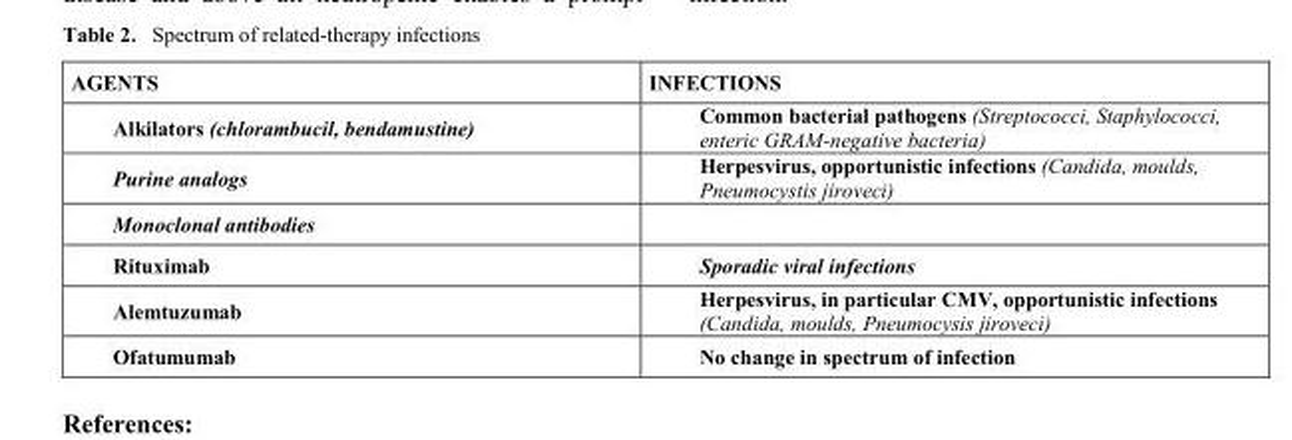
<table><thead><tr><td>AGENTS</td><td>INFECTIONS</td></tr></thead><tbody><tr><td>Alkilators (chlorambucil, bendamustine)</td><td>Common bacterial pathogens (Streptococci, Staphylococci, enteric GRAM-negative bacteria)</td></tr><tr><td>Purine analogs</td><td>Herpesvirus, opportunistic infections (Candida, moulds, Pneumocystis jiroveci)</td></tr><tr><td colspan="2">Monoclonal antibodies</td></tr><tr><td>Rituximab</td><td>Sporadic viral infections</td></tr><tr><td>Alemtuzumab</td><td>Herpesvirus, in particular CMV, opportunistic infections (Candida, moulds, Pneumocysis jiroveci)</td></tr><tr><td>Ofatumumab</td><td>No change in spectrum of infection</td></tr></tbody></table>